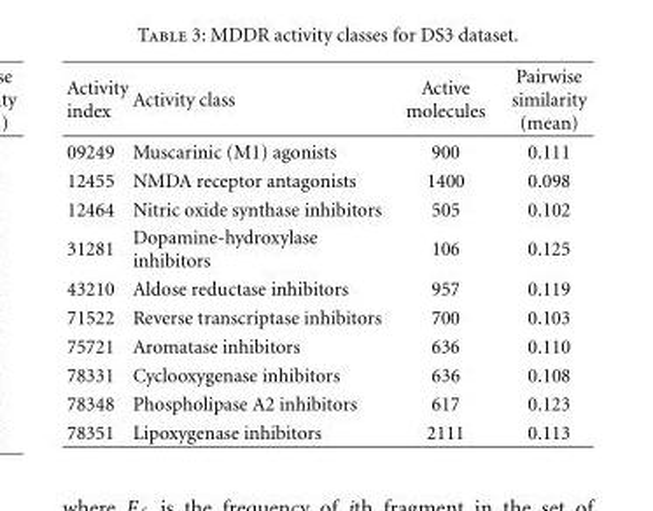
<table><thead><tr><td>Activity index</td><td>Activity class</td><td>Active molecules</td><td>Pairwise similarity (mean)</td></tr></thead><tbody><tr><td>09249</td><td>Muscarinic (M1) agonists</td><td>900</td><td>0.111</td></tr><tr><td>12455</td><td>NMDA receptor antagonists</td><td>1400</td><td>0.098</td></tr><tr><td>12464</td><td>Nitric oxide synthase inhibitors</td><td>505</td><td>0.102</td></tr><tr><td>31281</td><td>Dopamine-hydroxylase inhibitors</td><td>106</td><td>0.125</td></tr><tr><td>43210</td><td>Aldose reductase inhibitors</td><td>957</td><td>0.119</td></tr><tr><td>71522</td><td>Reverse transcriptase inhibitors</td><td>700</td><td>0.103</td></tr><tr><td>75721</td><td>Aromatase inhibitors</td><td>636</td><td>0.110</td></tr><tr><td>78331</td><td>Cyclooxygenase inhibitors</td><td>636</td><td>0.108</td></tr><tr><td>78348</td><td>Phospholipase A2 inhibitors</td><td>617</td><td>0.123</td></tr><tr><td>78351</td><td>Lipoxygenase inhibitors</td><td>2111</td><td>0.113</td></tr></tbody></table>